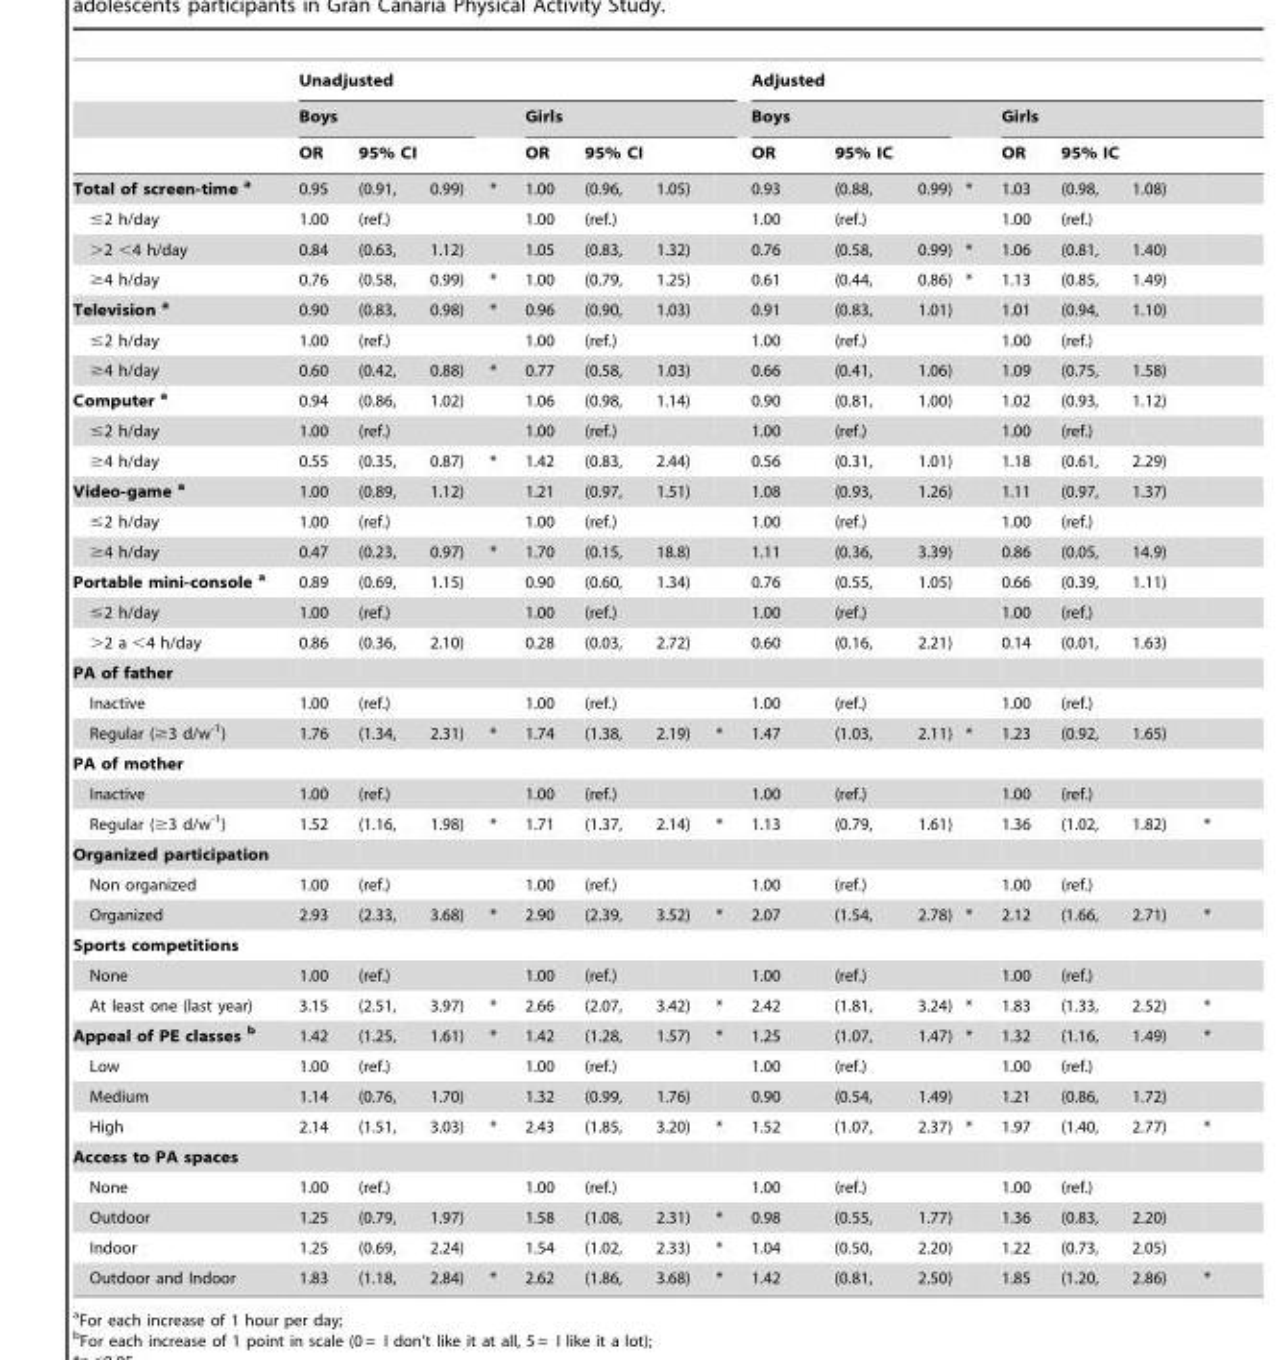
<table><thead><tr><td rowspan="4">Total of screen-time a</td><td colspan="8">Unadjusted</td><td colspan="8">Adjusted</td></tr><tr><td colspan="3">Boys</td><td rowspan="3">*</td><td colspan="4">Girls</td><td colspan="3">Boys</td><td rowspan="3">*</td><td colspan="4">Girls</td></tr><tr><td rowspan="2">OR 0.95</td><td colspan="2">95% CI</td><td rowspan="2">OR 1.00</td><td colspan="2">95% CI</td><td rowspan="2"></td><td rowspan="2">OR 0.93</td><td colspan="2">95% IC</td><td rowspan="2">OR 1.03</td><td colspan="2">95% IC</td><td rowspan="2"></td></tr><tr><td>(0.91,</td><td>0.99)</td><td>(0.96,</td><td>1.05)</td><td>(0.88,</td><td>0.99)</td><td>(0.98,</td><td>1.08)</td></tr></thead><tbody><tr><td>≤2 h/day</td><td>1.00</td><td>(ref.)</td><td></td><td></td><td>1.00</td><td>(ref.)</td><td></td><td></td><td>1.00</td><td>(ref.)</td><td></td><td></td><td>1.00</td><td>(ref.)</td><td></td><td></td></tr><tr><td>&gt;2 &lt;4 h/day</td><td>0.84</td><td>(0.63,</td><td>1.12)</td><td></td><td>1.05</td><td>(0.83,</td><td>1.32)</td><td></td><td>0.76</td><td>(0.58,</td><td>0.99)</td><td>*</td><td>1.06</td><td>(0.81,</td><td>1.40)</td><td></td></tr><tr><td>≥4 h/day</td><td>0.76</td><td>(0.58,</td><td>0.99)</td><td>*</td><td>1.00</td><td>(0.79,</td><td>1.25)</td><td></td><td>0.61</td><td>(0.44,</td><td>0.86)</td><td>*</td><td>1.13</td><td>(0.85,</td><td>1.49)</td><td></td></tr><tr><td>Television a</td><td>0.90</td><td>(0.83,</td><td>0.98)</td><td>*</td><td>0.96</td><td>(0.90,</td><td>1.03)</td><td></td><td>0.91</td><td>(0.83,</td><td>1.01)</td><td></td><td>1.01</td><td>(0.94,</td><td>1.10)</td><td></td></tr><tr><td>≤2 h/day</td><td>1.00</td><td>(ref.)</td><td></td><td></td><td>1.00</td><td>(ref.)</td><td></td><td></td><td>1.00</td><td>(ref.)</td><td></td><td></td><td>1.00</td><td>(ref.)</td><td></td><td></td></tr><tr><td>≥4 h/day</td><td>0.60</td><td>(0.42,</td><td>0.88)</td><td>*</td><td>0.77</td><td>(0.58,</td><td>1.03)</td><td></td><td>0.66</td><td>(0.41,</td><td>1.06)</td><td></td><td>1.09</td><td>(0.75,</td><td>1.58)</td><td></td></tr><tr><td>Computer a</td><td>0.94</td><td>(0.86,</td><td>1.02)</td><td></td><td>1.06</td><td>(0.98,</td><td>1.14)</td><td></td><td>0.90</td><td>(0.81,</td><td>1.00)</td><td></td><td>1.02</td><td>(0.93,</td><td>1.12)</td><td></td></tr><tr><td>≤2 h/day</td><td>1.00</td><td>(ref.)</td><td></td><td></td><td>1.00</td><td>(ref.)</td><td></td><td></td><td>1.00</td><td>(ref.)</td><td></td><td></td><td>1.00</td><td>(ref.)</td><td></td><td></td></tr><tr><td>≥4 h/day</td><td>0.55</td><td>(0.35,</td><td>0.87)</td><td>*</td><td>1.42</td><td>(0.83,</td><td>2.44)</td><td></td><td>0.56</td><td>(0.31,</td><td>1.01)</td><td></td><td>1.18</td><td>(0.61,</td><td>2.29)</td><td></td></tr><tr><td>Video-game a</td><td>1.00</td><td>(0.89,</td><td>1.12)</td><td></td><td>1.21</td><td>(0.97,</td><td>1.51)</td><td></td><td>1.08</td><td>(0.93,</td><td>1.26)</td><td></td><td>1.11</td><td>(0.97,</td><td>1.37)</td><td></td></tr><tr><td>≤2 h/day</td><td>1.00</td><td>(ref.)</td><td></td><td></td><td>1.00</td><td>(ref.)</td><td></td><td></td><td>1.00</td><td>(ref.)</td><td></td><td></td><td>1.00</td><td>(ref.)</td><td></td><td></td></tr><tr><td>≥4 h/day</td><td>0.47</td><td>(0.23,</td><td>0.97)</td><td>*</td><td>1.70</td><td>(0.15,</td><td>18.8)</td><td></td><td>1.11</td><td>(0.36,</td><td>3.39)</td><td></td><td>0.86</td><td>(0.05,</td><td>14.9)</td><td></td></tr><tr><td>Portable mini-console a</td><td>0.89</td><td>(0.69,</td><td>1.15)</td><td></td><td>0.90</td><td>(0.60,</td><td>1.34)</td><td></td><td>0.76</td><td>(0.55,</td><td>1.05)</td><td></td><td>0.66</td><td>(0.39,</td><td>1.11)</td><td></td></tr><tr><td>≤2 h/day</td><td>1.00</td><td>(ref.)</td><td></td><td></td><td>1.00</td><td>(ref.)</td><td></td><td></td><td>1.00</td><td>(ref.)</td><td></td><td></td><td>1.00</td><td>(ref.)</td><td></td><td></td></tr><tr><td>&gt;2 a &lt;4 h/day</td><td>0.86</td><td>(0.36,</td><td>2.10)</td><td></td><td>0.28</td><td>(0.03,</td><td>2.72)</td><td></td><td>0.60</td><td>(0.16,</td><td>2.21)</td><td></td><td>0.14</td><td>(0.01,</td><td>1.63)</td><td></td></tr><tr><td colspan="17">PA of father</td></tr><tr><td>Inactive</td><td>1.00</td><td>(ref.)</td><td></td><td></td><td>1.00</td><td>(ref.)</td><td></td><td></td><td>1.00</td><td>(ref.)</td><td></td><td></td><td>1.00</td><td>(ref.)</td><td></td><td></td></tr><tr><td>Regular (≥3 d/w<sup>-1</sup>)</td><td>1.76</td><td>(1.34,</td><td>2.31)</td><td>*</td><td>1.74</td><td>(1.38,</td><td>2.19)</td><td>*</td><td>1.47</td><td>(1.03,</td><td>2.11)</td><td>*</td><td>1.23</td><td>(0.92,</td><td>1.65)</td><td></td></tr><tr><td colspan="17">PA of mother</td></tr><tr><td>Inactive</td><td>1.00</td><td>(ref.)</td><td></td><td></td><td>1.00</td><td>(ref.)</td><td></td><td></td><td>1.00</td><td>(ref.)</td><td></td><td></td><td>1.00</td><td>(ref.)</td><td></td><td></td></tr><tr><td>Regular (≥3 d/w<sup>-1</sup>)</td><td>1.52</td><td>(1.16,</td><td>1.98)</td><td>*</td><td>1.71</td><td>(1.37,</td><td>2.14)</td><td>*</td><td>1.13</td><td>(0.79,</td><td>1.61)</td><td></td><td>1.36</td><td>(1.02,</td><td>1.82)</td><td>*</td></tr><tr><td colspan="17">Organized participation</td></tr><tr><td>Non organized</td><td>1.00</td><td>(ref.)</td><td></td><td></td><td>1.00</td><td>(ref.)</td><td></td><td></td><td>1.00</td><td>(ref.)</td><td></td><td></td><td>1.00</td><td>(ref.)</td><td></td><td></td></tr><tr><td>Organized</td><td>2.93</td><td>(2.33,</td><td>3.68)</td><td>*</td><td>2.90</td><td>(2.39,</td><td>3.52)</td><td>*</td><td>2.07</td><td>(1.54,</td><td>2.78)</td><td>*</td><td>2.12</td><td>(1.66,</td><td>2.71)</td><td>*</td></tr><tr><td colspan="17">Sports competitions</td></tr><tr><td>None</td><td>1.00</td><td>(ref.)</td><td></td><td></td><td>1.00</td><td>(ref.)</td><td></td><td></td><td>1.00</td><td>(ref.)</td><td></td><td></td><td>1.00</td><td>(ref.)</td><td></td><td></td></tr><tr><td>At least one (last year)</td><td>3.15</td><td>(2.51,</td><td>3.97)</td><td>*</td><td>2.66</td><td>(2.07,</td><td>3.42)</td><td>*</td><td>2.42</td><td>(1.81,</td><td>3.24)</td><td>*</td><td>1.83</td><td>(1.33,</td><td>2.52)</td><td>*</td></tr><tr><td>Appeal of PE classes b</td><td>1.42</td><td>(1.25,</td><td>1.61)</td><td>*</td><td>1.42</td><td>(1.28,</td><td>1.57)</td><td>*</td><td>1.25</td><td>(1.07,</td><td>1.47)</td><td>*</td><td>1.32</td><td>(1.16,</td><td>1.49)</td><td>*</td></tr><tr><td>Low</td><td>1.00</td><td>(ref.)</td><td></td><td></td><td>1.00</td><td>(ref.)</td><td></td><td></td><td>1.00</td><td>(ref.)</td><td></td><td></td><td>1.00</td><td>(ref.)</td><td></td><td></td></tr><tr><td>Medium</td><td>1.14</td><td>(0.76,</td><td>1.70)</td><td></td><td>1.32</td><td>(0.99,</td><td>1.76)</td><td></td><td>0.90</td><td>(0.54,</td><td>1.49)</td><td></td><td>1.21</td><td>(0.86,</td><td>1.72)</td><td></td></tr><tr><td>High</td><td>2.14</td><td>(1.51,</td><td>3.03)</td><td>*</td><td>2.43</td><td>(1.85,</td><td>3.20)</td><td>*</td><td>1.52</td><td>(1.07,</td><td>2.37)</td><td>*</td><td>1.97</td><td>(1.40,</td><td>2.77)</td><td>*</td></tr><tr><td colspan="17">Access to PA spaces</td></tr><tr><td>None</td><td>1.00</td><td>(ref.)</td><td></td><td></td><td>1.00</td><td>(ref.)</td><td></td><td></td><td>1.00</td><td>(ref.)</td><td></td><td></td><td>1.00</td><td>(ref.)</td><td></td><td></td></tr><tr><td>Outdoor</td><td>1.25</td><td>(0.79,</td><td>1.97)</td><td></td><td>1.58</td><td>(1.08,</td><td>2.31)</td><td>*</td><td>0.98</td><td>(0.55,</td><td>1.77)</td><td></td><td>1.36</td><td>(0.83,</td><td>2.20)</td><td></td></tr><tr><td>Indoor</td><td>1.25</td><td>(0.69,</td><td>2.24)</td><td></td><td>1.54</td><td>(1.02,</td><td>2.33)</td><td>*</td><td>1.04</td><td>(0.50,</td><td>2.20)</td><td></td><td>1.22</td><td>(0.73,</td><td>2.05)</td><td></td></tr><tr><td>Outdoor and Indoor</td><td>1.83</td><td>(1.18,</td><td>2.84)</td><td>*</td><td>2.62</td><td>(1.86,</td><td>3.68)</td><td>*</td><td>1.42</td><td>(0.81,</td><td>2.50)</td><td></td><td>1.85</td><td>(1.20,</td><td>2.86)</td><td>*</td></tr></tbody></table>